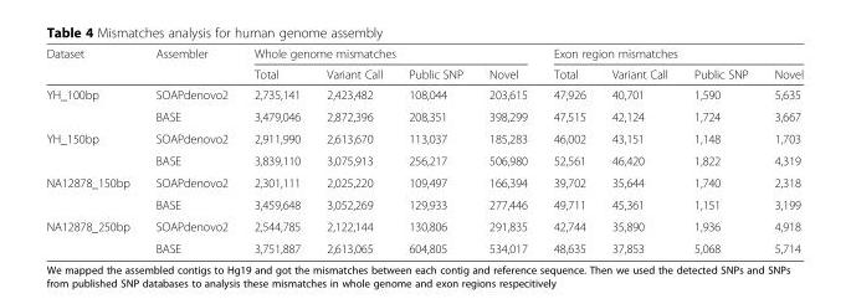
<table><thead><tr><td rowspan="2">Dataset</td><td rowspan="2">Assembler</td><td colspan="4">Whole genome mismatches</td><td colspan="4">Exon region mismatches</td></tr><tr><td>Total</td><td>Variant Call</td><td>Public SNP</td><td>Novel</td><td>Total</td><td>Variant Call</td><td>Public SNP</td><td>Novel</td></tr></thead><tbody><tr><td rowspan="2">YH_100bp</td><td>SOAPdenovo2</td><td>2,735,141</td><td>2,423,482</td><td>108,044</td><td>203,615</td><td>47,926</td><td>40,701</td><td>1,590</td><td>5,635</td></tr><tr><td>BASE</td><td>3,479,046</td><td>2,872,396</td><td>208,351</td><td>398,299</td><td>47,515</td><td>42,124</td><td>1,724</td><td>3,667</td></tr><tr><td rowspan="2">YH_150bp</td><td>SOAPdenovo2</td><td>2,911,990</td><td>2,613,670</td><td>113,037</td><td>185,283</td><td>46,002</td><td>43,151</td><td>1,148</td><td>1,703</td></tr><tr><td>BASE</td><td>3,839,110</td><td>3,075,913</td><td>256,217</td><td>506,980</td><td>52,561</td><td>46,420</td><td>1,822</td><td>4,319</td></tr><tr><td rowspan="2">NA12878_150bp</td><td>SOAPdenovo2</td><td>2,301,111</td><td>2,025,220</td><td>109,497</td><td>166,394</td><td>39,702</td><td>35,644</td><td>1,740</td><td>2,318</td></tr><tr><td>BASE</td><td>3,459,648</td><td>3,052,269</td><td>129,933</td><td>277,446</td><td>49,711</td><td>45,361</td><td>1,151</td><td>3,199</td></tr><tr><td rowspan="2">NA12878_250bp</td><td>SOAPdenovo2</td><td>2,544,785</td><td>2,122,144</td><td>130,806</td><td>291,835</td><td>42,744</td><td>35,890</td><td>1,936</td><td>4,918</td></tr><tr><td>BASE</td><td>3,751,887</td><td>2,613,065</td><td>604,805</td><td>534,017</td><td>48,635</td><td>37,853</td><td>5,068</td><td>5,714</td></tr></tbody></table>